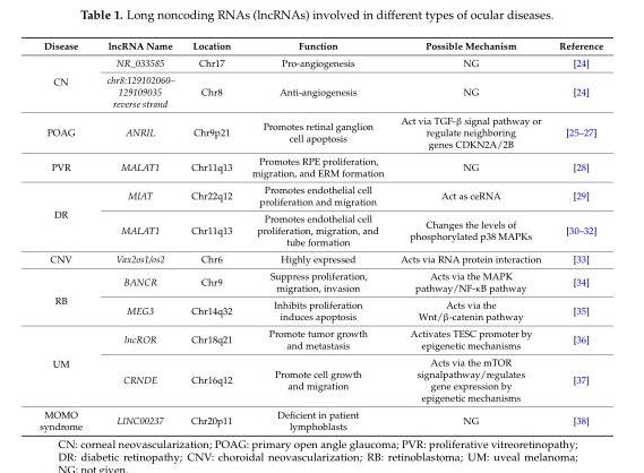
<table><thead><tr><td>Disease</td><td>lncRNA Name</td><td>Location</td><td>Function</td><td>Possible Mechanism</td><td>Reference</td></tr></thead><tbody><tr><td rowspan="2">CN</td><td>NR_033585</td><td>Chr17</td><td>Pro-angiogenesis</td><td>NG</td><td>[24]</td></tr><tr><td>chr8:129102060– 129109035 reverse strand</td><td>Chr8</td><td>Anti-angiogenesis</td><td>NG</td><td>[24]</td></tr><tr><td>POAG</td><td>ANRIL</td><td>Chr9p21</td><td>Promotes retinal ganglion cell apoptosis</td><td>Act via TGF-β signal pathway or regulate neighboring genes CDKN2A/2B</td><td>[25–27]</td></tr><tr><td>PVR</td><td>MALAT1</td><td>Chr11q13</td><td>Promotes RPE proliferation, migration, and ERM formation</td><td>NG</td><td>[28]</td></tr><tr><td rowspan="2">DR</td><td>MIAT</td><td>Chr22q12</td><td>Promotes endothelial cell proliferation and migration</td><td>Act as ceRNA</td><td>[29]</td></tr><tr><td>MALAT1</td><td>Chr11q13</td><td>Promotes endothelial cell proliferation, migration, and tube formation</td><td>Changes the levels of phosphorylated p38 MAPKs</td><td>[30–32]</td></tr><tr><td>CNV</td><td>Vax2os1/os2</td><td>Chr6</td><td>Highly expressed</td><td>Acts via RNA protein interaction</td><td>[33]</td></tr><tr><td rowspan="2">RB</td><td>BANCR</td><td>Chr9</td><td>Suppress proliferation, migration, invasion</td><td>Acts via the MAPK pathway/NF-κB pathway</td><td>[34]</td></tr><tr><td>MEG3</td><td>Chr14q32</td><td>Inhibits proliferation induces apoptosis</td><td>Acts via the Wnt/β-catenin pathway</td><td>[35]</td></tr><tr><td rowspan="2">UM</td><td>lncROR</td><td>Chr18q21</td><td>Promote tumor growth and metastasis</td><td>Activates TESC promoter by epigenetic mechanisms</td><td>[36]</td></tr><tr><td>CRNDE</td><td>Chr16q12</td><td>Promote cell growth and migration</td><td>Acts via the mTOR signalpathway/regulates gene expression by epigenetic mechanisms</td><td>[37]</td></tr><tr><td>MOMO syndrome</td><td>LINC00237</td><td>Chr20p11</td><td>Deficient in patient lymphoblasts</td><td>NG</td><td>[38]</td></tr></tbody></table>